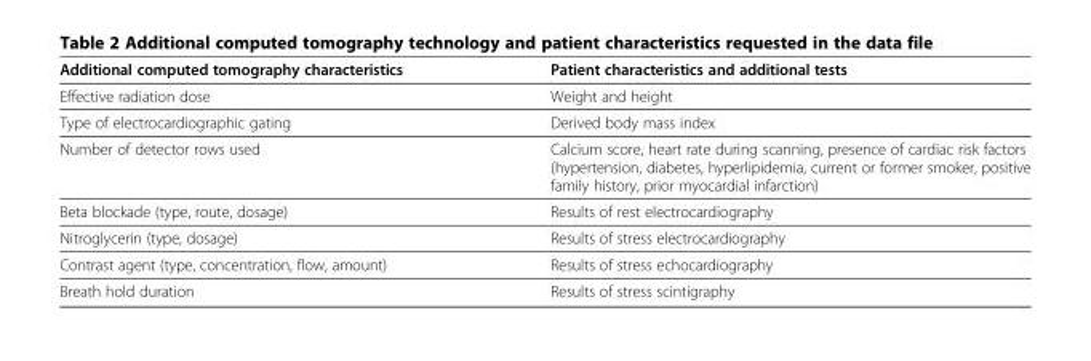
<table><thead><tr><td>Additional computed tomography characteristics</td><td>Patient characteristics and additional tests</td></tr></thead><tbody><tr><td>Effective radiation dose</td><td>Weight and height</td></tr><tr><td>Type of electrocardiographic gating</td><td>Derived body mass index</td></tr><tr><td>Number of detector rows used</td><td>Calcium score, heart rate during scanning, presence of cardiac risk factors (hypertension, diabetes, hyperlipidemia, current or former smoker, positive family history, prior myocardial infarction)</td></tr><tr><td>Beta blockade (type, route, dosage)</td><td>Results of rest electrocardiography</td></tr><tr><td>Nitroglycerin (type, dosage)</td><td>Results of stress electrocardiography</td></tr><tr><td>Contrast agent (type, concentration, flow, amount)</td><td>Results of stress echocardiography</td></tr><tr><td>Breath hold duration</td><td>Results of stress scintigraphy</td></tr></tbody></table>